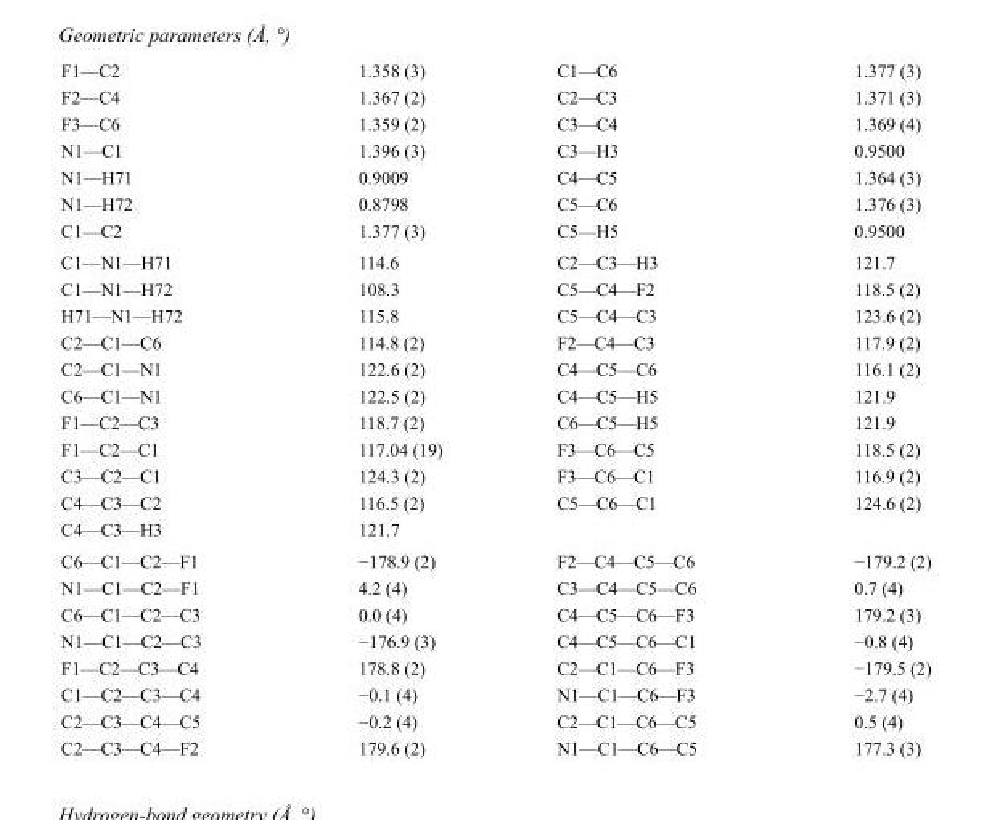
<table><tbody><tr><td>F1—C2</td><td>1.358 (3)</td><td>C1—C6</td><td>1.377 (3)</td></tr><tr><td>F2—C4</td><td>1.367 (2)</td><td>C2—C3</td><td>1.371 (3)</td></tr><tr><td>F3—C6</td><td>1.359 (2)</td><td>C3—C4</td><td>1.369 (4)</td></tr><tr><td>N1—C1</td><td>1.396 (3)</td><td>C3—H3</td><td>0.9500</td></tr><tr><td>N1—H71</td><td>0.9009</td><td>C4—C5</td><td>1.364 (3)</td></tr><tr><td>N1—H72</td><td>0.8798</td><td>C5—C6</td><td>1.376 (3)</td></tr><tr><td>C1—C2</td><td>1.377 (3)</td><td>C5—H5</td><td>0.9500</td></tr><tr><td>C1—N1—H71</td><td>114.6</td><td>C2—C3—H3</td><td>121.7</td></tr><tr><td>C1—N1—H72</td><td>108.3</td><td>C5—C4—F2</td><td>118.5 (2)</td></tr><tr><td>H71—N1—H72</td><td>115.8</td><td>C5—C4—C3</td><td>123.6 (2)</td></tr><tr><td>C2—C1—C6</td><td>114.8 (2)</td><td>F2—C4—C3</td><td>117.9 (2)</td></tr><tr><td>C2—C1—N1</td><td>122.6 (2)</td><td>C4—C5—C6</td><td>116.1 (2)</td></tr><tr><td>C6—C1—N1</td><td>122.5 (2)</td><td>C4—C5—H5</td><td>121.9</td></tr><tr><td>F1—C2—C3</td><td>118.7 (2)</td><td>C6—C5—H5</td><td>121.9</td></tr><tr><td>F1—C2—C1</td><td>117.04 (19)</td><td>F3—C6—C5</td><td>118.5 (2)</td></tr><tr><td>C3—C2—C1</td><td>124.3 (2)</td><td>F3—C6—C1</td><td>116.9 (2)</td></tr><tr><td>C4—C3—C2</td><td>116.5 (2)</td><td>C5—C6—C1</td><td>124.6 (2)</td></tr><tr><td>C4—C3—H3</td><td>121.7</td><td></td><td></td></tr><tr><td>C6—C1—C2—F1</td><td>−178.9 (2)</td><td>F2—C4—C5—C6</td><td>−179.2 (2)</td></tr><tr><td>N1—C1—C2—F1</td><td>4.2 (4)</td><td>C3—C4—C5—C6</td><td>0.7 (4)</td></tr><tr><td>C6—C1—C2—C3</td><td>0.0 (4)</td><td>C4—C5—C6—F3</td><td>179.2 (3)</td></tr><tr><td>N1—C1—C2—C3</td><td>−176.9 (3)</td><td>C4—C5—C6—C1</td><td>−0.8 (4)</td></tr><tr><td>F1—C2—C3—C4</td><td>178.8 (2)</td><td>C2—C1—C6—F3</td><td>−179.5 (2)</td></tr><tr><td>C1—C2—C3—C4</td><td>−0.1 (4)</td><td>N1—C1—C6—F3</td><td>−2.7 (4)</td></tr><tr><td>C2—C3—C4—C5</td><td>−0.2 (4)</td><td>C2—C1—C6—C5</td><td>0.5 (4)</td></tr><tr><td>C2—C3—C4—F2</td><td>179.6 (2)</td><td>N1—C1—C6—C5</td><td>177.3 (3)</td></tr></tbody></table>